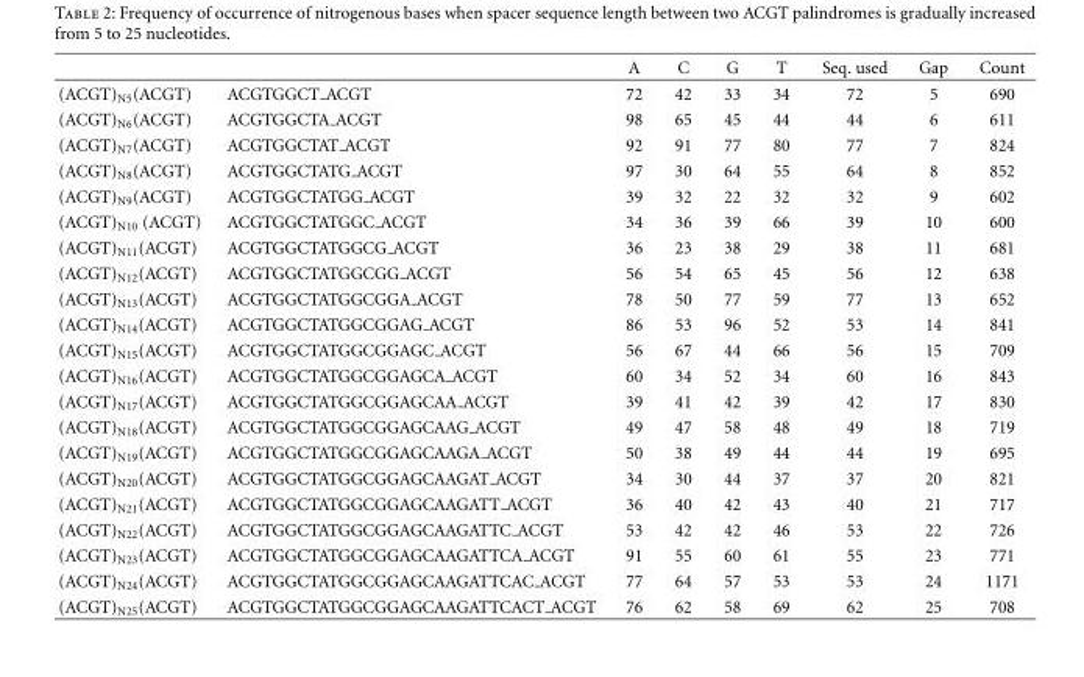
<table><thead><tr><td></td><td></td><td>A</td><td>C</td><td>G</td><td>T</td><td>Seq. used</td><td>Gap</td><td>Count</td></tr></thead><tbody><tr><td>(ACGT)<sub>N5</sub>(ACGT)</td><td>ACGTGGCT ACGT</td><td>72</td><td>42</td><td>33</td><td>34</td><td>72</td><td>5</td><td>690</td></tr><tr><td>(ACGT)<sub>N6</sub>(ACGT)</td><td>ACGTGGCTA ACGT</td><td>98</td><td>65</td><td>45</td><td>44</td><td>44</td><td>6</td><td>611</td></tr><tr><td>(ACGT)<sub>N7</sub>(ACGT)</td><td>ACGTGGCTAT ACGT</td><td>92</td><td>91</td><td>77</td><td>80</td><td>77</td><td>7</td><td>824</td></tr><tr><td>(ACGT)<sub>N8</sub>(ACGT)</td><td>ACGTGGCTATG ACGT</td><td>97</td><td>30</td><td>64</td><td>55</td><td>64</td><td>8</td><td>852</td></tr><tr><td>(ACGT)<sub>N9</sub>(ACGT)</td><td>ACGTGGCTATGG ACGT</td><td>39</td><td>32</td><td>22</td><td>32</td><td>32</td><td>9</td><td>602</td></tr><tr><td>(ACGT)<sub>N10</sub> (ACGT)</td><td>ACGTGGCTATGGC ACGT</td><td>34</td><td>36</td><td>39</td><td>66</td><td>39</td><td>10</td><td>600</td></tr><tr><td>(ACGT)<sub>N11</sub>(ACGT)</td><td>ACGTGGCTATGGCG ACGT</td><td>36</td><td>23</td><td>38</td><td>29</td><td>38</td><td>11</td><td>681</td></tr><tr><td>(ACGT)<sub>N12</sub>(ACGT)</td><td>ACGTGGCTATGGCGG ACGT</td><td>56</td><td>54</td><td>65</td><td>45</td><td>56</td><td>12</td><td>638</td></tr><tr><td>(ACGT)<sub>N13</sub>(ACGT)</td><td>ACGTGGCTATGGCGGA ACGT</td><td>78</td><td>50</td><td>77</td><td>59</td><td>77</td><td>13</td><td>652</td></tr><tr><td>(ACGT)<sub>N14</sub>(ACGT)</td><td>ACGTGGCTATGGCGGAG ACGT</td><td>86</td><td>53</td><td>96</td><td>52</td><td>53</td><td>14</td><td>841</td></tr><tr><td>(ACGT)<sub>N15</sub>(ACGT)</td><td>ACGTGGCTATGGCGGAGC ACGT</td><td>56</td><td>67</td><td>44</td><td>66</td><td>56</td><td>15</td><td>709</td></tr><tr><td>(ACGT)<sub>N16</sub>(ACGT)</td><td>ACGTGGCTATGGCGGAGCA ACGT</td><td>60</td><td>34</td><td>52</td><td>34</td><td>60</td><td>16</td><td>843</td></tr><tr><td>(ACGT)<sub>N17</sub>(ACGT)</td><td>ACGTGGCTATGGCGGAGCAA ACGT</td><td>39</td><td>41</td><td>42</td><td>39</td><td>42</td><td>17</td><td>830</td></tr><tr><td>(ACGT)<sub>N18</sub>(ACGT)</td><td>ACGTGGCTATGGCGGAGCAAG ACGT</td><td>49</td><td>47</td><td>58</td><td>48</td><td>49</td><td>18</td><td>719</td></tr><tr><td>(ACGT)<sub>N19</sub>(ACGT)</td><td>ACGTGGCTATGGCGGAGCAAGA ACGT</td><td>50</td><td>38</td><td>49</td><td>44</td><td>44</td><td>19</td><td>695</td></tr><tr><td>(ACGT)<sub>N20</sub>(ACGT)</td><td>ACGTGGCTATGGCGGAGCAAGAT ACGT</td><td>34</td><td>30</td><td>44</td><td>37</td><td>37</td><td>20</td><td>821</td></tr><tr><td>(ACGT)<sub>N21</sub>(ACGT)</td><td>ACGTGGCTATGGCGGAGCAAGATT ACGT</td><td>36</td><td>40</td><td>42</td><td>43</td><td>40</td><td>21</td><td>717</td></tr><tr><td>(ACGT)<sub>N22</sub>(ACGT)</td><td>ACGTGGCTATGGCGGAGCAAGATTC ACGT</td><td>53</td><td>42</td><td>42</td><td>46</td><td>53</td><td>22</td><td>726</td></tr><tr><td>(ACGT)<sub>N23</sub>(ACGT)</td><td>ACGTGGCTATGGCGGAGCAAGATTCA ACGT</td><td>91</td><td>55</td><td>60</td><td>61</td><td>55</td><td>23</td><td>771</td></tr><tr><td>(ACGT)<sub>N24</sub>(ACGT)</td><td>ACGTGGCTATGGCGGAGCAAGATTCAC ACGT</td><td>77</td><td>64</td><td>57</td><td>53</td><td>53</td><td>24</td><td>1171</td></tr><tr><td>(ACGT)<sub>N25</sub>(ACGT)</td><td>ACGTGGCTATGGCGGAGCAAGATTCACT ACGT</td><td>76</td><td>62</td><td>58</td><td>69</td><td>62</td><td>25</td><td>708</td></tr></tbody></table>